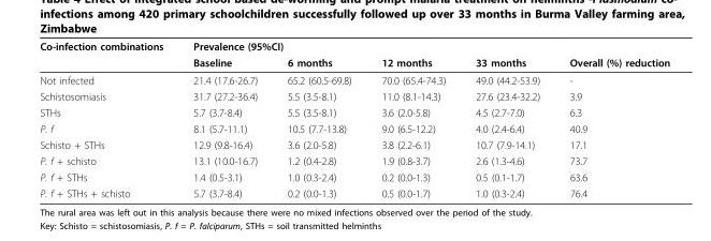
<table><thead><tr><td rowspan="2">Co-infection combinations</td><td colspan="5">Prevalence (95%CI)</td></tr><tr><td>Baseline</td><td>6 months</td><td>12 months</td><td>33 months</td><td>Overall (%) reduction</td></tr></thead><tbody><tr><td>Not infected</td><td>21.4 (17.6-26.7)</td><td>65.2 (60.5-69.8)</td><td>70.0 (65.4-74.3)</td><td>49.0 (44.2-53.9)</td><td>-</td></tr><tr><td>Schistosomiasis</td><td>31.7 (27.2-36.4)</td><td>5.5 (3.5-8.1)</td><td>11.0 (8.1-14.3)</td><td>27.6 (23.4-32.2)</td><td>3.9</td></tr><tr><td>STHs</td><td>5.7 (3.7-8.4)</td><td>5.5 (3.5-8.1)</td><td>3.6 (2.0-5.8)</td><td>4.5 (2.7-7.0)</td><td>6.3</td></tr><tr><td>P. f</td><td>8.1 (5.7-11.1)</td><td>10.5 (7.7-13.8)</td><td>9.0 (6.5-12.2)</td><td>4.0 (2.4-6.4)</td><td>40.9</td></tr><tr><td>Schisto + STHs</td><td>12.9 (9.8-16.4)</td><td>3.6 (2.0-5.8)</td><td>3.8 (2.2-6.1)</td><td>10.7 (7.9-14.1)</td><td>17.1</td></tr><tr><td>P. f + schisto</td><td>13.1 (10.0-16.7)</td><td>1.2 (0.4-2.8)</td><td>1.9 (0.8-3.7)</td><td>2.6 (1.3-4.6)</td><td>73.7</td></tr><tr><td>P. f + STHs</td><td>1.4 (0.5-3.1)</td><td>1.0 (0.3-2.4)</td><td>0.2 (0.0-1.3)</td><td>0.5 (0.1-1.7)</td><td>63.6</td></tr><tr><td>P. f + STHs + schisto</td><td>5.7 (3.7-8.4)</td><td>0.2 (0.0-1.3)</td><td>0.5 (0.0-1.7)</td><td>1.0 (0.3-2.4)</td><td>76.4</td></tr></tbody></table>